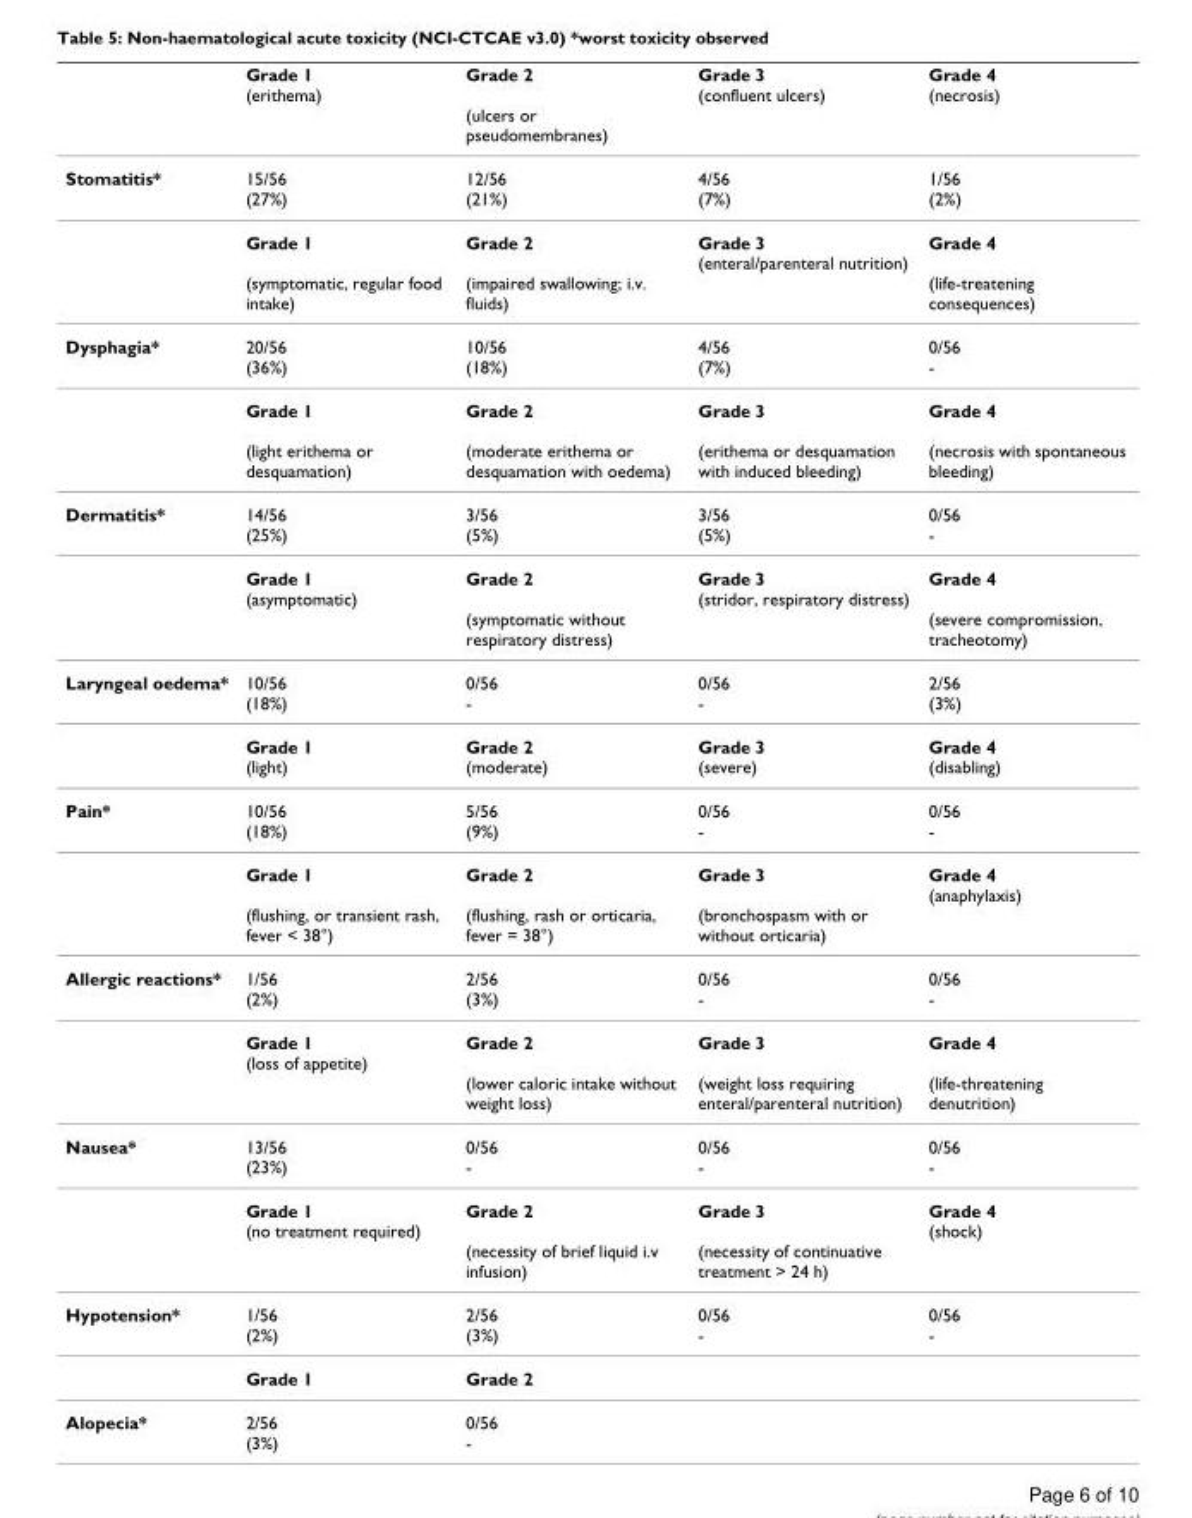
<table><thead><tr><td></td><td>Grade 1 (erithema)</td><td>Grade 2 (ulcers or pseudomembranes)</td><td>Grade 3 (confluent ulcers)</td><td>Grade 4 (necrosis)</td></tr></thead><tbody><tr><td rowspan="2">Stomatitis*</td><td>15/56 (27%)</td><td>12/56 (21%)</td><td>4/56 (7%)</td><td>1/56 (2%)</td></tr><tr><td>Grade 1 (symptomatic, regular food intake)</td><td>Grade 2 (impaired swallowing; i.v. fluids)</td><td>Grade 3 (enteral/parenteral nutrition)</td><td>Grade 4 (life-treatening consequences)</td></tr><tr><td rowspan="2">Dysphagia*</td><td>20/56 (36%)</td><td>10/56 (18%)</td><td>4/56 (7%)</td><td>0/56 -</td></tr><tr><td>Grade 1 (light erithema or desquamation)</td><td>Grade 2 (moderate erithema or desquamation with oedema)</td><td>Grade 3 (erithema or desquamation with induced bleeding)</td><td>Grade 4 (necrosis with spontaneous bleeding)</td></tr><tr><td rowspan="2">Dermatitis*</td><td>14/56 (25%)</td><td>3/56 (5%)</td><td>3/56 (5%)</td><td>0/56 -</td></tr><tr><td>Grade 1 (asymptomatic)</td><td>Grade 2 (symptomatic without respiratory distress)</td><td>Grade 3 (stridor, respiratory distress)</td><td>Grade 4 (severe compromission, tracheotomy)</td></tr><tr><td rowspan="2">Laryngeal oedema*</td><td>10/56 (18%)</td><td>0/56 -</td><td>0/56 -</td><td>2/56 (3%)</td></tr><tr><td>Grade 1 (light)</td><td>Grade 2 (moderate)</td><td>Grade 3 (severe)</td><td>Grade 4 (disabling)</td></tr><tr><td rowspan="2">Pain*</td><td>10/56 (18%)</td><td>5/56 (9%)</td><td>0/56 -</td><td>0/56 -</td></tr><tr><td>Grade 1 (flushing, or transient rash, fever &lt; 38°)</td><td>Grade 2 (flushing, rash or orticaria, fever = 38°)</td><td>Grade 3 (bronchospasm with or without orticaria)</td><td>Grade 4 (anaphylaxis)</td></tr><tr><td rowspan="2">Allergic reactions*</td><td>1/56 (2%)</td><td>2/56 (3%)</td><td>0/56 -</td><td>0/56 -</td></tr><tr><td>Grade 1 (loss of appetite)</td><td>Grade 2 (lower caloric intake without weight loss)</td><td>Grade 3 (weight loss requiring enteral/parenteral nutrition)</td><td>Grade 4 (life-threatening denutrition)</td></tr><tr><td rowspan="2">Nausea*</td><td>13/56 (23%)</td><td>0/56 -</td><td>0/56 -</td><td>0/56 -</td></tr><tr><td>Grade 1 (no treatment required)</td><td>Grade 2 (necessity of brief liquid i.v infusion)</td><td>Grade 3 (necessity of continuative treatment &gt; 24 h)</td><td>Grade 4 (shock)</td></tr><tr><td rowspan="2">Hypotension*</td><td>1/56 (2%)</td><td>2/56 (3%)</td><td>0/56 -</td><td>0/56 -</td></tr><tr><td>Grade 1</td><td>Grade 2</td><td></td><td></td></tr><tr><td>Alopecia*</td><td>2/56 (3%)</td><td>0/56 -</td><td></td><td></td></tr></tbody></table>